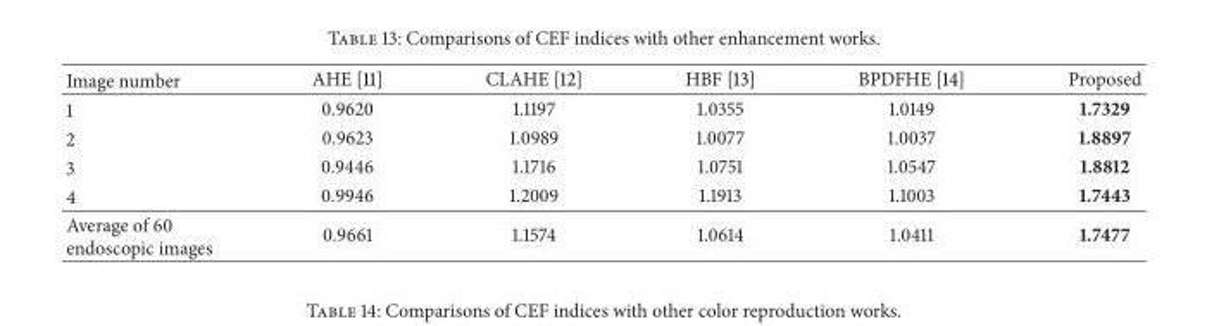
<table><tbody><tr><td>Image number</td><td>AHE [11]</td><td>CLAHE [12]</td><td>HBF [13]</td><td>BPDFHE [14]</td><td>Proposed</td></tr><tr><td>1</td><td>0.9620</td><td>1.1197</td><td>1.0355</td><td>1.0149</td><td>1.7329</td></tr><tr><td>2</td><td>0.9623</td><td>1.0989</td><td>1.0077</td><td>1.0037</td><td>1.8897</td></tr><tr><td>3</td><td>0.9446</td><td>1.1716</td><td>1.0751</td><td>1.0547</td><td>1.8812</td></tr><tr><td>4</td><td>0.9946</td><td>1.2009</td><td>1.1913</td><td>1.1003</td><td>1.7443</td></tr><tr><td>Average of 60 endoscopic images</td><td>0.9661</td><td>1.1574</td><td>1.0614</td><td>1.0411</td><td>1.7477</td></tr></tbody></table>